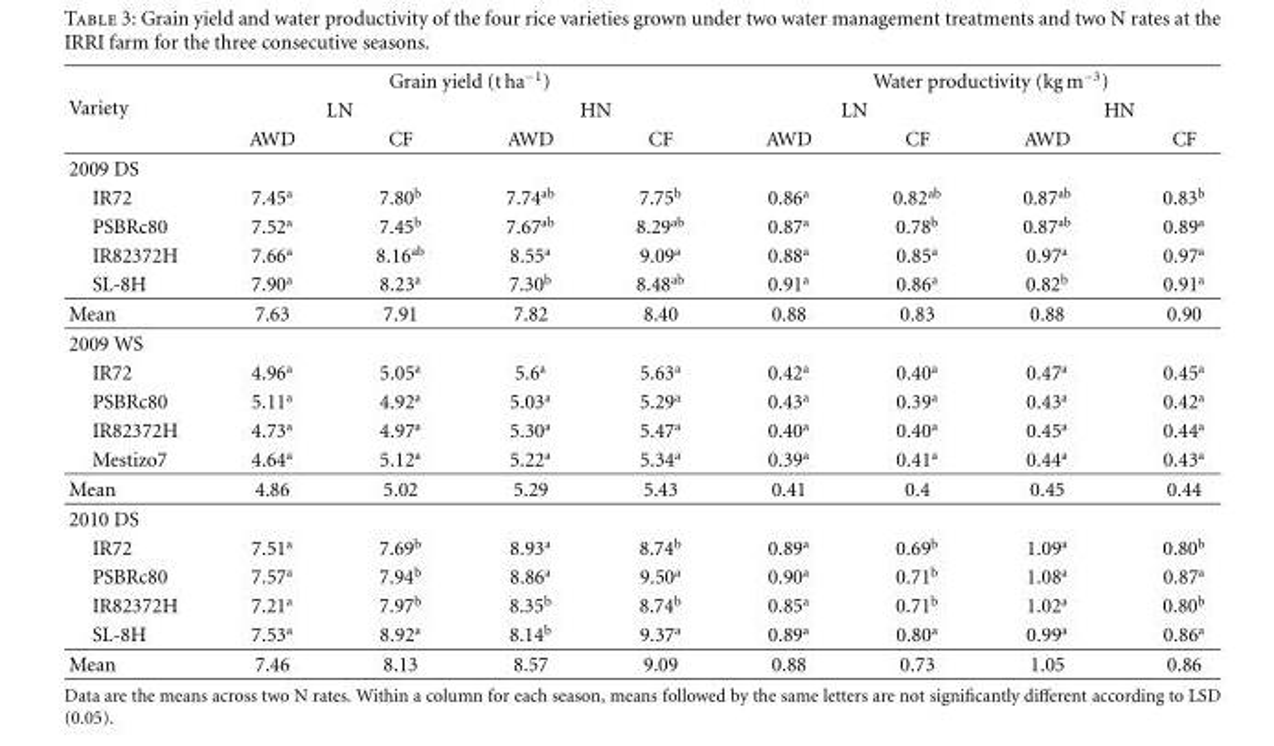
<table><thead><tr><td rowspan="3">Variety</td><td colspan="4">Grain yield (t ha<sup>−1</sup>)</td><td colspan="4">Water productivity (kg m<sup>−3</sup>)</td></tr><tr><td colspan="2">LN</td><td colspan="2">HN</td><td colspan="2">LN</td><td colspan="2">HN</td></tr><tr><td>AWD</td><td>CF</td><td>AWD</td><td>CF</td><td>AWD</td><td>CF</td><td>AWD</td><td>CF</td></tr></thead><tbody><tr><td colspan="9">2009 DS</td></tr><tr><td>IR72</td><td>7.45<sup>a</sup></td><td>7.80<sup>b</sup></td><td>7.74<sup>ab</sup></td><td>7.75<sup>b</sup></td><td>0.86<sup>a</sup></td><td>0.82<sup>ab</sup></td><td>0.87<sup>ab</sup></td><td>0.83<sup>b</sup></td></tr><tr><td>PSBRc80</td><td>7.52<sup>a</sup></td><td>7.45<sup>b</sup></td><td>7.67<sup>ab</sup></td><td>8.29<sup>ab</sup></td><td>0.87<sup>a</sup></td><td>0.78<sup>b</sup></td><td>0.87<sup>ab</sup></td><td>0.89<sup>a</sup></td></tr><tr><td>IR82372H</td><td>7.66<sup>a</sup></td><td>8.16<sup>ab</sup></td><td>8.55<sup>a</sup></td><td>9.09<sup>a</sup></td><td>0.88<sup>a</sup></td><td>0.85<sup>a</sup></td><td>0.97<sup>a</sup></td><td>0.97<sup>a</sup></td></tr><tr><td>SL-8H</td><td>7.90<sup>a</sup></td><td>8.23<sup>a</sup></td><td>7.30<sup>b</sup></td><td>8.48<sup>ab</sup></td><td>0.91<sup>a</sup></td><td>0.86<sup>a</sup></td><td>0.82<sup>b</sup></td><td>0.91<sup>a</sup></td></tr><tr><td>Mean</td><td>7.63</td><td>7.91</td><td>7.82</td><td>8.40</td><td>0.88</td><td>0.83</td><td>0.88</td><td>0.90</td></tr><tr><td colspan="9">2009 WS</td></tr><tr><td>IR72</td><td>4.96<sup>a</sup></td><td>5.05<sup>a</sup></td><td>5.6<sup>a</sup></td><td>5.63<sup>a</sup></td><td>0.42<sup>a</sup></td><td>0.40<sup>a</sup></td><td>0.47<sup>a</sup></td><td>0.45<sup>a</sup></td></tr><tr><td>PSBRc80</td><td>5.11<sup>a</sup></td><td>4.92<sup>a</sup></td><td>5.03<sup>a</sup></td><td>5.29<sup>a</sup></td><td>0.43<sup>a</sup></td><td>0.39<sup>a</sup></td><td>0.43<sup>a</sup></td><td>0.42<sup>a</sup></td></tr><tr><td>IR82372H</td><td>4.73<sup>a</sup></td><td>4.97<sup>a</sup></td><td>5.30<sup>a</sup></td><td>5.47<sup>a</sup></td><td>0.40<sup>a</sup></td><td>0.40<sup>a</sup></td><td>0.45<sup>a</sup></td><td>0.44<sup>a</sup></td></tr><tr><td>Mestizo7</td><td>4.64<sup>a</sup></td><td>5.12<sup>a</sup></td><td>5.22<sup>a</sup></td><td>5.34<sup>a</sup></td><td>0.39<sup>a</sup></td><td>0.41<sup>a</sup></td><td>0.44<sup>a</sup></td><td>0.43<sup>a</sup></td></tr><tr><td>Mean</td><td>4.86</td><td>5.02</td><td>5.29</td><td>5.43</td><td>0.41</td><td>0.4</td><td>0.45</td><td>0.44</td></tr><tr><td colspan="9">2010 DS</td></tr><tr><td>IR72</td><td>7.51<sup>a</sup></td><td>7.69<sup>b</sup></td><td>8.93<sup>a</sup></td><td>8.74<sup>b</sup></td><td>0.89<sup>a</sup></td><td>0.69<sup>b</sup></td><td>1.09<sup>a</sup></td><td>0.80<sup>b</sup></td></tr><tr><td>PSBRc80</td><td>7.57<sup>a</sup></td><td>7.94<sup>b</sup></td><td>8.86<sup>a</sup></td><td>9.50<sup>a</sup></td><td>0.90<sup>a</sup></td><td>0.71<sup>b</sup></td><td>1.08<sup>a</sup></td><td>0.87<sup>a</sup></td></tr><tr><td>IR82372H</td><td>7.21<sup>a</sup></td><td>7.97<sup>b</sup></td><td>8.35<sup>b</sup></td><td>8.74<sup>b</sup></td><td>0.85<sup>a</sup></td><td>0.71<sup>b</sup></td><td>1.02<sup>a</sup></td><td>0.80<sup>b</sup></td></tr><tr><td>SL-8H</td><td>7.53<sup>a</sup></td><td>8.92<sup>a</sup></td><td>8.14<sup>b</sup></td><td>9.37<sup>a</sup></td><td>0.89<sup>a</sup></td><td>0.80<sup>a</sup></td><td>0.99<sup>a</sup></td><td>0.86<sup>a</sup></td></tr><tr><td>Mean</td><td>7.46</td><td>8.13</td><td>8.57</td><td>9.09</td><td>0.88</td><td>0.73</td><td>1.05</td><td>0.86</td></tr></tbody></table>